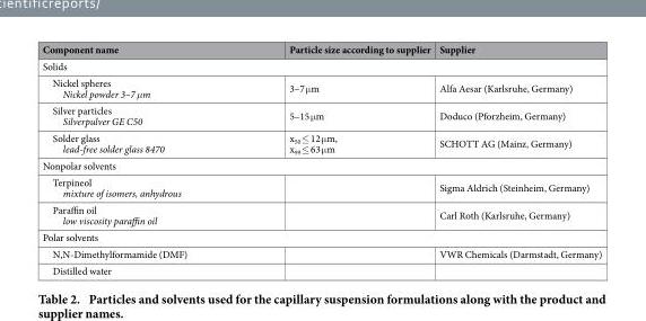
<table><thead><tr><td>Component name</td><td>Particle size according to supplier</td><td>Supplier</td></tr></thead><tbody><tr><td colspan="3">Solids</td></tr><tr><td>Nickel spheres Nickel powder 3–7 μm</td><td>3–7 μ m</td><td>Alfa Aesar (Karlsruhe, Germany)</td></tr><tr><td>Silver particles Silverpulver GE C50</td><td>5–15 μ m</td><td>Doduco (Pforzheim, Germany)</td></tr><tr><td>Solder glass lead-free solder glass 8470</td><td>x<sub>50</sub> ≤ 12 μ m, x<sub>99</sub> ≤ 63 μ m</td><td>SCHOTT AG (Mainz, Germany)</td></tr><tr><td colspan="3">Nonpolar solvents</td></tr><tr><td>Terpineol mixture of isomers, anhydrous</td><td></td><td>Sigma Aldrich (Steinheim, Germany)</td></tr><tr><td>Paraffin oil low viscosity paraffin oil</td><td></td><td>Carl Roth (Karlsruhe, Germany)</td></tr><tr><td colspan="3">Polar solvents</td></tr><tr><td>N,N-Dimethylformamide (DMF)</td><td></td><td>VWR Chemicals (Darmstadt, Germany)</td></tr><tr><td>Distilled water</td><td></td><td></td></tr></tbody></table>